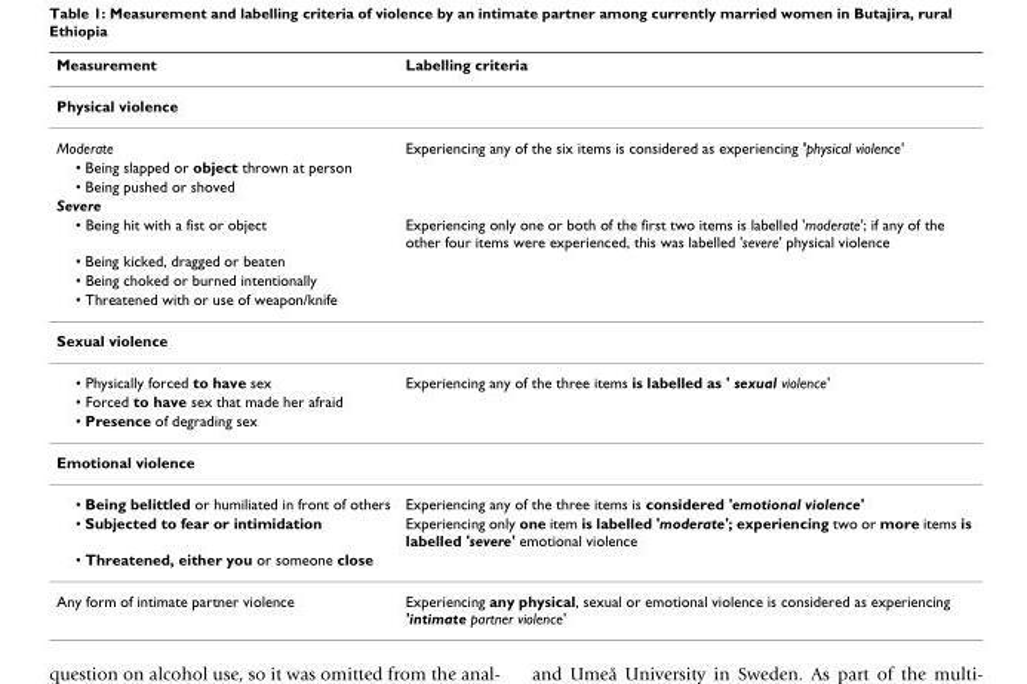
<table><thead><tr><td>Measurement</td><td>Labelling criteria</td></tr></thead><tbody><tr><td colspan="2">Physical violence</td></tr><tr><td>Moderate</td><td>Experiencing any of the six items is considered as experiencing &#x27;physical violence&#x27;</td></tr><tr><td colspan="2">• Being slapped or object thrown at person</td></tr><tr><td colspan="2">• Being pushed or shoved</td></tr><tr><td colspan="2">Severe</td></tr><tr><td>• Being hit with a fist or object</td><td>Experiencing only one or both of the first two items is labelled &#x27;moderate&#x27;; if any of the other four items were experienced, this was labelled &#x27;severe&#x27; physical violence</td></tr><tr><td colspan="2">• Being kicked, dragged or beaten</td></tr><tr><td colspan="2">• Being choked or burned intentionally</td></tr><tr><td colspan="2">• Threatened with or use of weapon/knife</td></tr><tr><td colspan="2">Sexual violence</td></tr><tr><td>• Physically forced to have sex</td><td>Experiencing any of the three items is labelled as &#x27; sexual violence&#x27;</td></tr><tr><td colspan="2">• Forced to have sex that made her afraid</td></tr><tr><td colspan="2">• Presence of degrading sex</td></tr><tr><td colspan="2">Emotional violence</td></tr><tr><td>• Being belittled or humiliated in front of others</td><td>Experiencing any of the three items is considered &#x27;emotional violence&#x27;</td></tr><tr><td>• Subjected to fear or intimidation</td><td>Experiencing only one item is labelled &#x27;moderate&#x27;; experiencing two or more items is labelled &#x27;severe&#x27; emotional violence</td></tr><tr><td colspan="2">• Threatened, either you or someone close</td></tr><tr><td>Any form of intimate partner violence</td><td>Experiencing any physical, sexual or emotional violence is considered as experiencing &#x27;intimate partner violence&#x27;</td></tr></tbody></table>